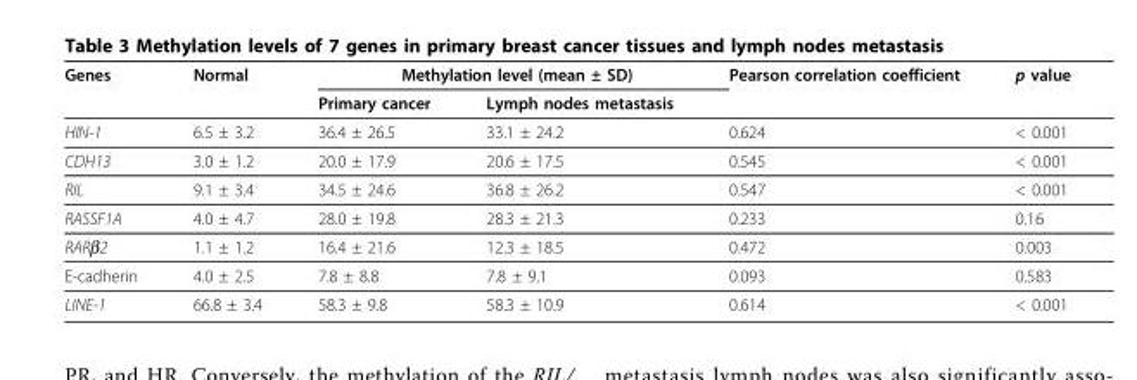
<table><thead><tr><td rowspan="2">Genes</td><td rowspan="2">Normal</td><td colspan="2">Methylation level (mean ± SD)</td><td rowspan="2">Pearson correlation coefficient</td><td rowspan="2">p value</td></tr><tr><td>Primary cancer</td><td>Lymph nodes metastasis</td></tr></thead><tbody><tr><td>HIN-1</td><td>6.5 ± 3.2</td><td>36.4 ± 26.5</td><td>33.1 ± 24.2</td><td>0.624</td><td>&lt; 0.001</td></tr><tr><td>CDH13</td><td>3.0 ± 1.2</td><td>20.0 ± 17.9</td><td>20.6 ± 17.5</td><td>0.545</td><td>&lt; 0.001</td></tr><tr><td>RIL</td><td>9.1 ± 3.4</td><td>34.5 ± 24.6</td><td>36.8 ± 26.2</td><td>0.547</td><td>&lt; 0.001</td></tr><tr><td>RASSF1A</td><td>4.0 ± 4.7</td><td>28.0 ± 19.8</td><td>28.3 ± 21.3</td><td>0.233</td><td>0.16</td></tr><tr><td>RARβ2</td><td>1.1 ± 1.2</td><td>16.4 ± 21.6</td><td>12.3 ± 18.5</td><td>0.472</td><td>0.003</td></tr><tr><td>E-cadherin</td><td>4.0 ± 2.5</td><td>7.8 ± 8.8</td><td>7.8 ± 9.1</td><td>0.093</td><td>0.583</td></tr><tr><td>LINE-1</td><td>66.8 ± 3.4</td><td>58.3 ± 9.8</td><td>58.3 ± 10.9</td><td>0.614</td><td>&lt; 0.001</td></tr></tbody></table>